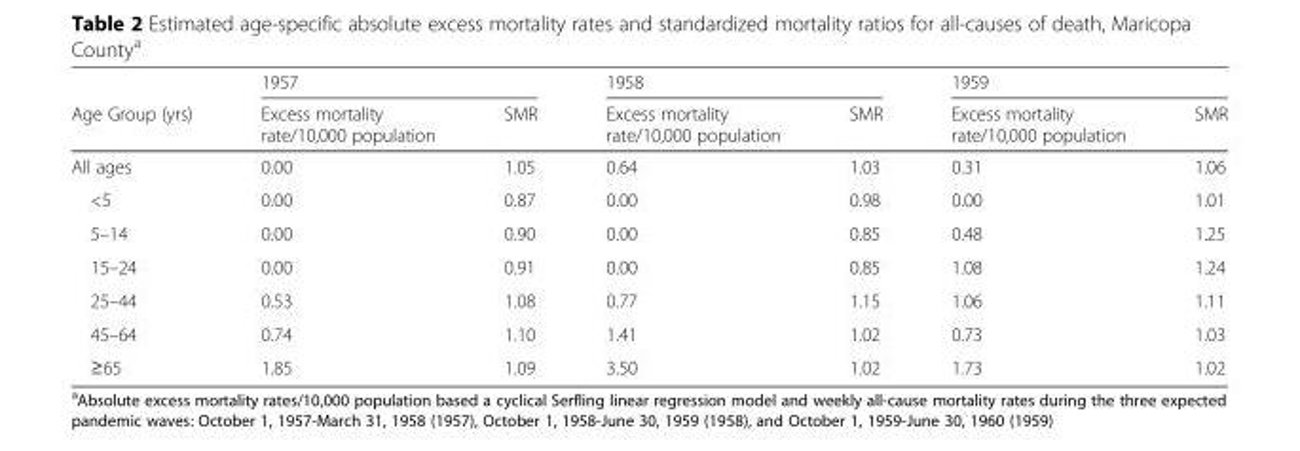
<table><thead><tr><td rowspan="2">Age Group (yrs)</td><td colspan="2">1957</td><td colspan="2">1958</td><td colspan="2">1959</td></tr><tr><td>Excess mortality rate/10,000 population</td><td>SMR</td><td>Excess mortality rate/10,000 population</td><td>SMR</td><td>Excess mortality rate/10,000 population</td><td>SMR</td></tr></thead><tbody><tr><td>All ages</td><td>0.00</td><td>1.05</td><td>0.64</td><td>1.03</td><td>0.31</td><td>1.06</td></tr><tr><td>&lt;5</td><td>0.00</td><td>0.87</td><td>0.00</td><td>0.98</td><td>0.00</td><td>1.01</td></tr><tr><td>5–14</td><td>0.00</td><td>0.90</td><td>0.00</td><td>0.85</td><td>0.48</td><td>1.25</td></tr><tr><td>15–24</td><td>0.00</td><td>0.91</td><td>0.00</td><td>0.85</td><td>1.08</td><td>1.24</td></tr><tr><td>25–44</td><td>0.53</td><td>1.08</td><td>0.77</td><td>1.15</td><td>1.06</td><td>1.11</td></tr><tr><td>45–64</td><td>0.74</td><td>1.10</td><td>1.41</td><td>1.02</td><td>0.73</td><td>1.03</td></tr><tr><td>≥65</td><td>1.85</td><td>1.09</td><td>3.50</td><td>1.02</td><td>1.73</td><td>1.02</td></tr></tbody></table>